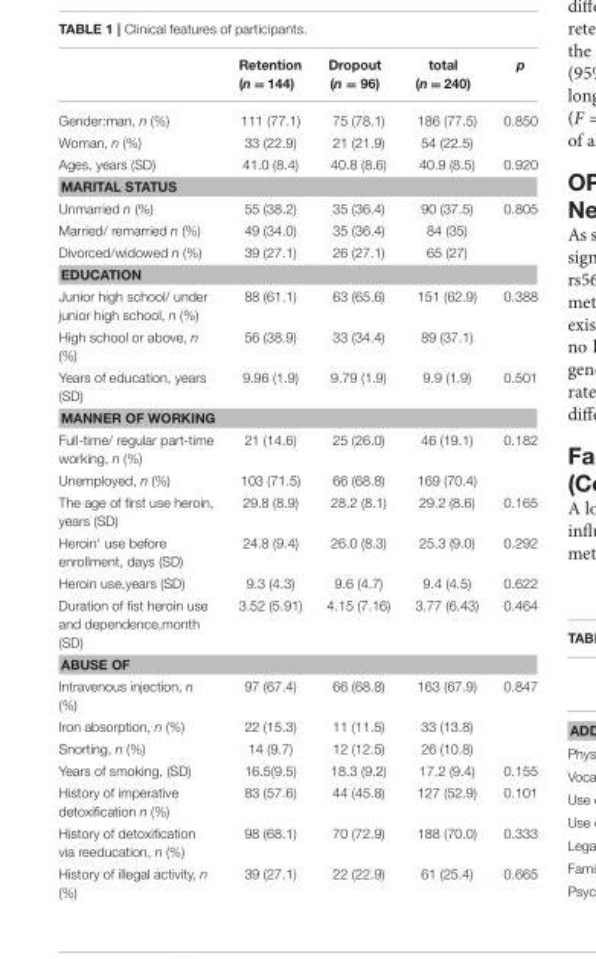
<table><thead><tr><td></td><td>Retention (n = 144)</td><td>Dropout (n = 96)</td><td>total (n = 240)</td><td>p</td></tr></thead><tbody><tr><td>Gender:man, n (%)</td><td>111 (77.1)</td><td>75 (78.1)</td><td>186 (77.5)</td><td>0.850</td></tr><tr><td>Woman, n (%)</td><td>33 (22.9)</td><td>21 (21.9)</td><td>54 (22.5)</td><td></td></tr><tr><td>Ages, years (SD)</td><td>41.0 (8.4)</td><td>40.8 (8.6)</td><td>40.9 (8.5)</td><td>0.920</td></tr><tr><td colspan="5">MARITAL STATUS</td></tr><tr><td>Unmarried n (%)</td><td>55 (38.2)</td><td>35 (36.4)</td><td>90 (37.5)</td><td>0.805</td></tr><tr><td>Married/ remarried n (%)</td><td>49 (34.0)</td><td>35 (36.4)</td><td>84 (35)</td><td></td></tr><tr><td>Divorced/widowed n (%)</td><td>39 (27.1)</td><td>26 (27.1)</td><td>65 (27)</td><td></td></tr><tr><td colspan="5">EDUCATION</td></tr><tr><td>Junior high school/ under junior high school, n (%)</td><td>88 (61.1)</td><td>63 (65.6)</td><td>151 (62.9)</td><td>0.388</td></tr><tr><td>High school or above, n (%)</td><td>56 (38.9)</td><td>33 (34.4)</td><td>89 (37.1)</td><td></td></tr><tr><td>Years of education, years (SD)</td><td>9.96 (1.9)</td><td>9.79 (1.9)</td><td>9.9 (1.9)</td><td>0.501</td></tr><tr><td colspan="5">MANNER OF WORKING</td></tr><tr><td>Full-time/ regular part-time working, n (%)</td><td>21 (14.6)</td><td>25 (26.0)</td><td>46 (19.1)</td><td>0.182</td></tr><tr><td>Unemployed, n (%)</td><td>103 (71.5)</td><td>66 (68.8)</td><td>169 (70.4)</td><td></td></tr><tr><td>The age of first use heroin, years (SD)</td><td>29.8 (8.9)</td><td>28.2 (8.1)</td><td>29.2 (8.6)</td><td>0.165</td></tr><tr><td>Heroin‘ use before enrollment, days (SD)</td><td>24.8 (9.4)</td><td>26.0 (8.3)</td><td>25.3 (9.0)</td><td>0.292</td></tr><tr><td>Heroin use,years (SD)</td><td>9.3 (4.3)</td><td>9.6 (4.7)</td><td>9.4 (4.5)</td><td>0.622</td></tr><tr><td>Duration of fist heroin use and dependence,month (SD)</td><td>3.52 (5.91)</td><td>4.15 (7.16)</td><td>3.77 (6.43)</td><td>0.464</td></tr><tr><td colspan="5">ABUSE OF</td></tr><tr><td>Intravenous injection, n (%)</td><td>97 (67.4)</td><td>66 (68.8)</td><td>163 (67.9)</td><td>0.847</td></tr><tr><td>Iron absorption, n (%)</td><td>22 (15.3)</td><td>11 (11.5)</td><td>33 (13.8)</td><td></td></tr><tr><td>Snorting, n (%)</td><td>14 (9.7)</td><td>12 (12.5)</td><td>26 (10.8)</td><td></td></tr><tr><td>Years of smoking, (SD)</td><td>16.5(9.5)</td><td>18.3 (9.2)</td><td>17.2 (9.4)</td><td>0.155</td></tr><tr><td>History of imperative detoxification n (%)</td><td>83 (57.6)</td><td>44 (45.8)</td><td>127 (52.9)</td><td>0.101</td></tr><tr><td>History of detoxification via reeducation, n (%)</td><td>98 (68.1)</td><td>70 (72.9)</td><td>188 (70.0)</td><td>0.333</td></tr><tr><td>History of illegal activity, n (%)</td><td>39 (27.1)</td><td>22 (22.9)</td><td>61 (25.4)</td><td>0.665</td></tr></tbody></table>